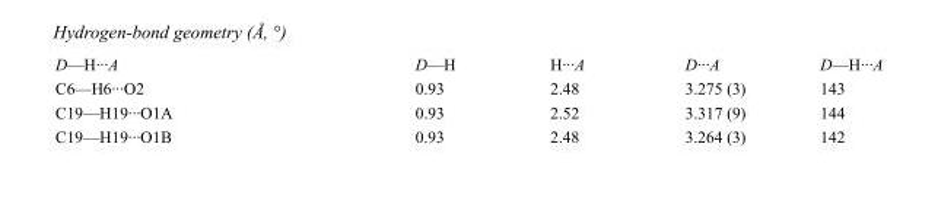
<table><tbody><tr><td>D—H···A</td><td>D—H</td><td>H···A</td><td>D···A</td><td>D—H···A</td></tr><tr><td>C6—H6···O2</td><td>0.93</td><td>2.48</td><td>3.275 (3)</td><td>143</td></tr><tr><td>C19—H19···O1A</td><td>0.93</td><td>2.52</td><td>3.317 (9)</td><td>144</td></tr><tr><td>C19—H19···O1B</td><td>0.93</td><td>2.48</td><td>3.264 (3)</td><td>142</td></tr></tbody></table>